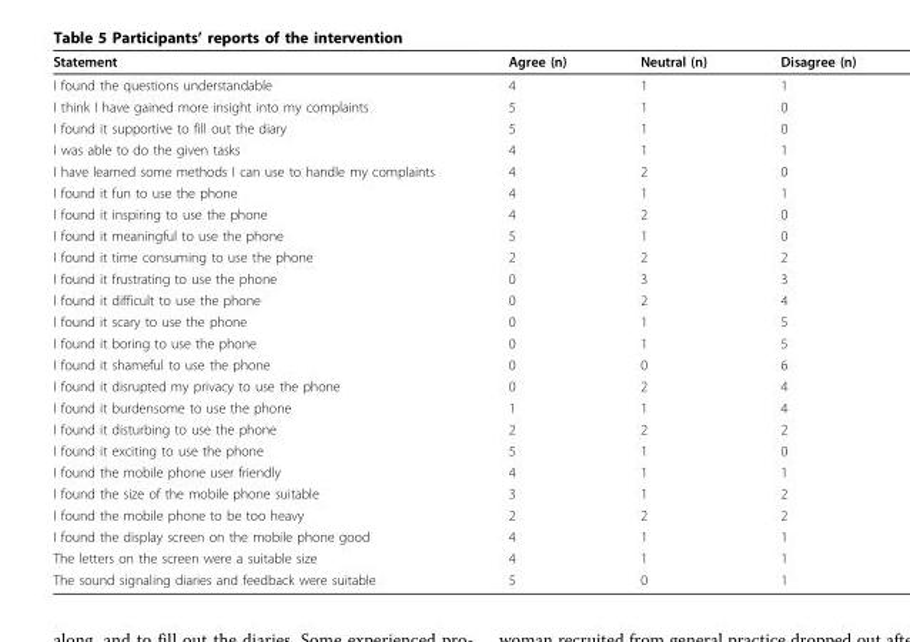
<table><thead><tr><td>Statement</td><td>Agree (n)</td><td>Neutral (n)</td><td>Disagree (n)</td></tr></thead><tbody><tr><td>I found the questions understandable</td><td>4</td><td>1</td><td>1</td></tr><tr><td>I think I have gained more insight into my complaints</td><td>5</td><td>1</td><td>0</td></tr><tr><td>I found it supportive to fill out the diary</td><td>5</td><td>1</td><td>0</td></tr><tr><td>I was able to do the given tasks</td><td>4</td><td>1</td><td>1</td></tr><tr><td>I have learned some methods I can use to handle my complaints</td><td>4</td><td>2</td><td>0</td></tr><tr><td>I found it fun to use the phone</td><td>4</td><td>1</td><td>1</td></tr><tr><td>I found it inspiring to use the phone</td><td>4</td><td>2</td><td>0</td></tr><tr><td>I found it meaningful to use the phone</td><td>5</td><td>1</td><td>0</td></tr><tr><td>I found it time consuming to use the phone</td><td>2</td><td>2</td><td>2</td></tr><tr><td>I found it frustrating to use the phone</td><td>0</td><td>3</td><td>3</td></tr><tr><td>I found it difficult to use the phone</td><td>0</td><td>2</td><td>4</td></tr><tr><td>I found it scary to use the phone</td><td>0</td><td>1</td><td>5</td></tr><tr><td>I found it boring to use the phone</td><td>0</td><td>1</td><td>5</td></tr><tr><td>I found it shameful to use the phone</td><td>0</td><td>0</td><td>6</td></tr><tr><td>I found it disrupted my privacy to use the phone</td><td>0</td><td>2</td><td>4</td></tr><tr><td>I found it burdensome to use the phone</td><td>1</td><td>1</td><td>4</td></tr><tr><td>I found it disturbing to use the phone</td><td>2</td><td>2</td><td>2</td></tr><tr><td>I found it exciting to use the phone</td><td>5</td><td>1</td><td>0</td></tr><tr><td>I found the mobile phone user friendly</td><td>4</td><td>1</td><td>1</td></tr><tr><td>I found the size of the mobile phone suitable</td><td>3</td><td>1</td><td>2</td></tr><tr><td>I found the mobile phone to be too heavy</td><td>2</td><td>2</td><td>2</td></tr><tr><td>I found the display screen on the mobile phone good</td><td>4</td><td>1</td><td>1</td></tr><tr><td>The letters on the screen were a suitable size</td><td>4</td><td>1</td><td>1</td></tr><tr><td>The sound signaling diaries and feedback were suitable</td><td>5</td><td>0</td><td>1</td></tr></tbody></table>